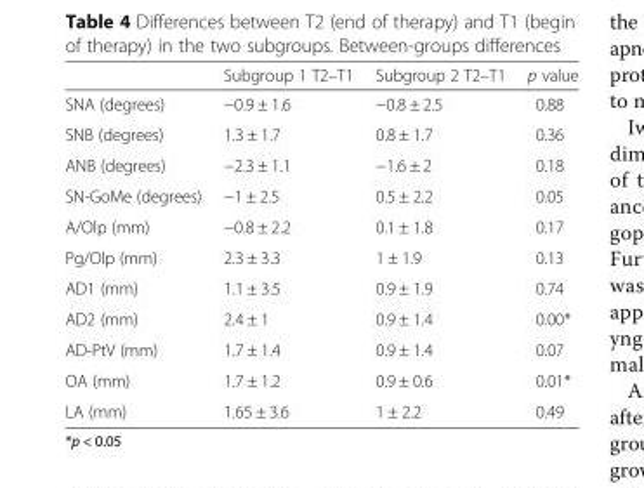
<table><thead><tr><td></td><td>Subgroup 1 T2–T1</td><td>Subgroup 2 T2–T1</td><td>p value</td></tr></thead><tbody><tr><td>SNA (degrees)</td><td>−0.9 ± 1.6</td><td>−0.8 ± 2.5</td><td>0.88</td></tr><tr><td>SNB (degrees)</td><td>1.3 ± 1.7</td><td>0.8 ± 1.7</td><td>0.36</td></tr><tr><td>ANB (degrees)</td><td>−2.3 ± 1.1</td><td>−1.6 ± 2</td><td>0.18</td></tr><tr><td>SN-GoMe (degrees)</td><td>−1 ± 2.5</td><td>0.5 ± 2.2</td><td>0.05</td></tr><tr><td>A/Olp (mm)</td><td>−0.8 ± 2.2</td><td>0.1 ± 1.8</td><td>0.17</td></tr><tr><td>Pg/Olp (mm)</td><td>2.3 ± 3.3</td><td>1 ± 1.9</td><td>0.13</td></tr><tr><td>AD1 (mm)</td><td>1.1 ± 3.5</td><td>0.9 ± 1.9</td><td>0.74</td></tr><tr><td>AD2 (mm)</td><td>2.4 ± 1</td><td>0.9 ± 1.4</td><td>0.00*</td></tr><tr><td>AD-PtV (mm)</td><td>1.7 ± 1.4</td><td>0.9 ± 1.4</td><td>0.07</td></tr><tr><td>OA (mm)</td><td>1.7 ± 1.2</td><td>0.9 ± 0.6</td><td>0.01*</td></tr><tr><td>LA (mm)</td><td>1.65 ± 3.6</td><td>1 ± 2.2</td><td>0.49</td></tr></tbody></table>